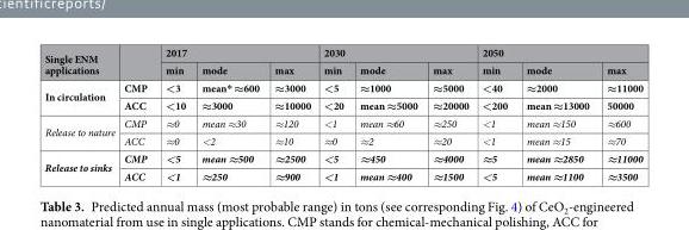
<table><thead><tr><td rowspan="2">Single ENM applications</td><td rowspan="2"></td><td colspan="3">2017</td><td colspan="3">2030</td><td colspan="3">2050</td></tr><tr><td>min</td><td>mode</td><td>max</td><td>min</td><td>mode</td><td>max</td><td>min</td><td>mode</td><td>max</td></tr></thead><tbody><tr><td rowspan="2">In circulation</td><td>CMP</td><td>&lt;3</td><td>mean* ≈600</td><td>≈3000</td><td>&lt;5</td><td>≈1000</td><td>≈5000</td><td>&lt;40</td><td>≈2000</td><td>≈11000</td></tr><tr><td>ACC</td><td>&lt;10</td><td>≈3000</td><td>≈10000</td><td>&lt;20</td><td>mean ≈5000</td><td>≈20000</td><td>&lt;200</td><td>mean ≈13000</td><td>50000</td></tr><tr><td rowspan="2">Release to nature</td><td>CMP</td><td>≈0</td><td>mean ≈30</td><td>≈120</td><td>&lt;1</td><td>mean ≈60</td><td>≈250</td><td>&lt;1</td><td>mean ≈150</td><td>≈600</td></tr><tr><td>ACC</td><td>≈0</td><td>&lt;2</td><td>≈10</td><td>≈0</td><td>≈2</td><td>≈20</td><td>&lt;1</td><td>mean ≈15</td><td>≈70</td></tr><tr><td rowspan="2">Release to sinks</td><td>CMP</td><td>&lt;5</td><td>mean ≈500</td><td>≈2500</td><td>&lt;5</td><td>≈450</td><td>≈4000</td><td>≈5</td><td>mean ≈2850</td><td>≈11000</td></tr><tr><td>ACC</td><td>&lt;1</td><td>≈250</td><td>≈900</td><td>&lt;1</td><td>mean ≈400</td><td>≈1500</td><td>&lt;5</td><td>mean ≈1100</td><td>≈3500</td></tr></tbody></table>